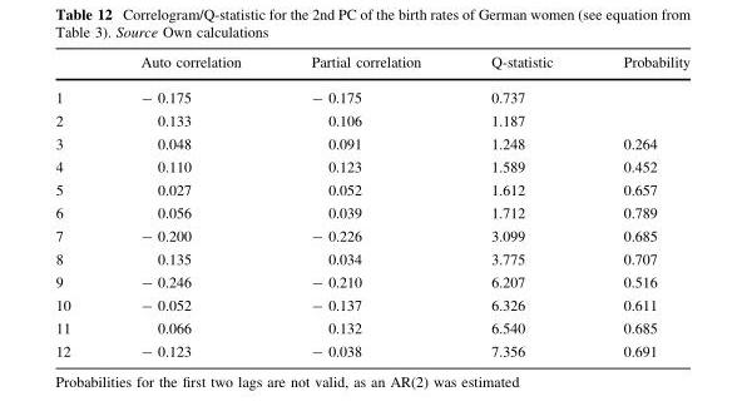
<table><thead><tr><td></td><td>Auto correlation</td><td>Partial correlation</td><td>Q-statistic</td><td>Probability</td></tr></thead><tbody><tr><td>1</td><td>- 0.175</td><td>- 0.175</td><td>0.737</td><td></td></tr><tr><td>2</td><td>0.133</td><td>0.106</td><td>1.187</td><td></td></tr><tr><td>3</td><td>0.048</td><td>0.091</td><td>1.248</td><td>0.264</td></tr><tr><td>4</td><td>0.110</td><td>0.123</td><td>1.589</td><td>0.452</td></tr><tr><td>5</td><td>0.027</td><td>0.052</td><td>1.612</td><td>0.657</td></tr><tr><td>6</td><td>0.056</td><td>0.039</td><td>1.712</td><td>0.789</td></tr><tr><td>7</td><td>- 0.200</td><td>- 0.226</td><td>3.099</td><td>0.685</td></tr><tr><td>8</td><td>0.135</td><td>0.034</td><td>3.775</td><td>0.707</td></tr><tr><td>9</td><td>- 0.246</td><td>- 0.210</td><td>6.207</td><td>0.516</td></tr><tr><td>10</td><td>- 0.052</td><td>- 0.137</td><td>6.326</td><td>0.611</td></tr><tr><td>11</td><td>0.066</td><td>0.132</td><td>6.540</td><td>0.685</td></tr><tr><td>12</td><td>- 0.123</td><td>- 0.038</td><td>7.356</td><td>0.691</td></tr></tbody></table>